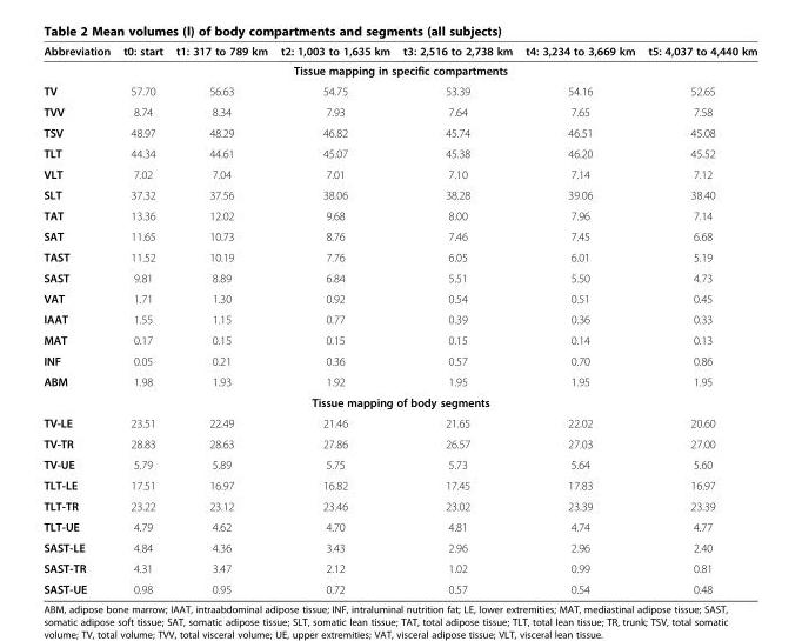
<table><thead><tr><td>Abbreviation</td><td>t0: start</td><td>t1: 317 to 789 km</td><td>t2: 1,003 to 1,635 km</td><td>t3: 2,516 to 2,738 km</td><td>t4: 3,234 to 3,669 km</td><td>t5: 4,037 to 4,440 km</td></tr></thead><tbody><tr><td colspan="7">Tissue mapping in specific compartments</td></tr><tr><td>TV</td><td>57.70</td><td>56.63</td><td>54.75</td><td>53.39</td><td>54.16</td><td>52.65</td></tr><tr><td>TVV</td><td>8.74</td><td>8.34</td><td>7.93</td><td>7.64</td><td>7.65</td><td>7.58</td></tr><tr><td>TSV</td><td>48.97</td><td>48.29</td><td>46.82</td><td>45.74</td><td>46.51</td><td>45.08</td></tr><tr><td>TLT</td><td>44.34</td><td>44.61</td><td>45.07</td><td>45.38</td><td>46.20</td><td>45.52</td></tr><tr><td>VLT</td><td>7.02</td><td>7.04</td><td>7.01</td><td>7.10</td><td>7.14</td><td>7.12</td></tr><tr><td>SLT</td><td>37.32</td><td>37.56</td><td>38.06</td><td>38.28</td><td>39.06</td><td>38.40</td></tr><tr><td>TAT</td><td>13.36</td><td>12.02</td><td>9.68</td><td>8.00</td><td>7.96</td><td>7.14</td></tr><tr><td>SAT</td><td>11.65</td><td>10.73</td><td>8.76</td><td>7.46</td><td>7.45</td><td>6.68</td></tr><tr><td>TAST</td><td>11.52</td><td>10.19</td><td>7.76</td><td>6.05</td><td>6.01</td><td>5.19</td></tr><tr><td>SAST</td><td>9.81</td><td>8.89</td><td>6.84</td><td>5.51</td><td>5.50</td><td>4.73</td></tr><tr><td>VAT</td><td>1.71</td><td>1.30</td><td>0.92</td><td>0.54</td><td>0.51</td><td>0.45</td></tr><tr><td>IAAT</td><td>1.55</td><td>1.15</td><td>0.77</td><td>0.39</td><td>0.36</td><td>0.33</td></tr><tr><td>MAT</td><td>0.17</td><td>0.15</td><td>0.15</td><td>0.15</td><td>0.14</td><td>0.13</td></tr><tr><td>INF</td><td>0.05</td><td>0.21</td><td>0.36</td><td>0.57</td><td>0.70</td><td>0.86</td></tr><tr><td>ABM</td><td>1.98</td><td>1.93</td><td>1.92</td><td>1.95</td><td>1.95</td><td>1.95</td></tr><tr><td colspan="7">Tissue mapping of body segments</td></tr><tr><td>TV-LE</td><td>23.51</td><td>22.49</td><td>21.46</td><td>21.65</td><td>22.02</td><td>20.60</td></tr><tr><td>TV-TR</td><td>28.83</td><td>28.63</td><td>27.86</td><td>26.57</td><td>27.03</td><td>27.00</td></tr><tr><td>TV-UE</td><td>5.79</td><td>5.89</td><td>5.75</td><td>5.73</td><td>5.64</td><td>5.60</td></tr><tr><td>TLT-LE</td><td>17.51</td><td>16.97</td><td>16.82</td><td>17.45</td><td>17.83</td><td>16.97</td></tr><tr><td>TLT-TR</td><td>23.22</td><td>23.12</td><td>23.46</td><td>23.02</td><td>23.39</td><td>23.39</td></tr><tr><td>TLT-UE</td><td>4.79</td><td>4.62</td><td>4.70</td><td>4.81</td><td>4.74</td><td>4.77</td></tr><tr><td>SAST-LE</td><td>4.84</td><td>4.36</td><td>3.43</td><td>2.96</td><td>2.96</td><td>2.40</td></tr><tr><td>SAST-TR</td><td>4.31</td><td>3.47</td><td>2.12</td><td>1.02</td><td>0.99</td><td>0.81</td></tr><tr><td>SAST-UE</td><td>0.98</td><td>0.95</td><td>0.72</td><td>0.57</td><td>0.54</td><td>0.48</td></tr></tbody></table>